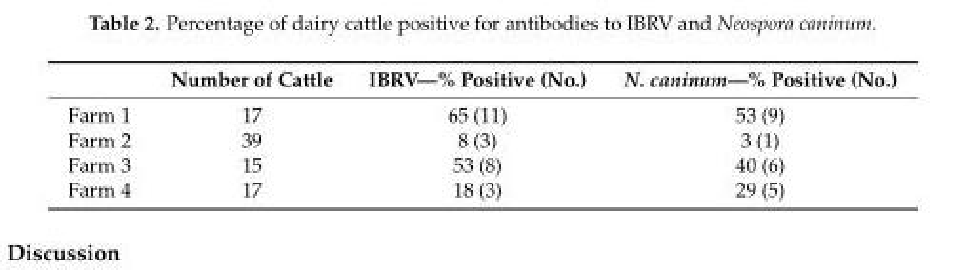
<table><thead><tr><td></td><td>Number of Cattle</td><td>IBRV—% Positive (No.)</td><td>N. caninum—% Positive (No.)</td></tr></thead><tbody><tr><td>Farm 1</td><td>17</td><td>65 (11)</td><td>53 (9)</td></tr><tr><td>Farm 2</td><td>39</td><td>8 (3)</td><td>3 (1)</td></tr><tr><td>Farm 3</td><td>15</td><td>53 (8)</td><td>40 (6)</td></tr><tr><td>Farm 4</td><td>17</td><td>18 (3)</td><td>29 (5)</td></tr></tbody></table>